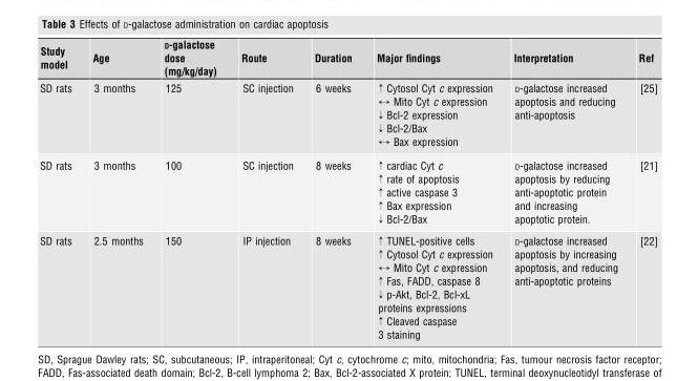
<table><thead><tr><td>Study model</td><td>Age</td><td>D-galactose dose (mg/kg/day)</td><td>Route</td><td>Duration</td><td>Major findings</td><td>Interpretation</td><td>Ref</td></tr></thead><tbody><tr><td>SD rats</td><td>3 months</td><td>125</td><td>SC injection</td><td>6 weeks</td><td>↑ Cytosol Cyt c expression ↔ Mito Cyt c expression ↓ Bcl-2 expression ↓ Bcl-2/Bax ↔ Bax expression</td><td>D-galactose increased apoptosis and reducing anti-apoptosis</td><td>[25]</td></tr><tr><td>SD rats</td><td>3 months</td><td>100</td><td>SC injection</td><td>8 weeks</td><td>↑ cardiac Cyt c ↑ rate of apoptosis ↑ active caspase 3 ↑ Bax expression ↓ Bcl-2/Bax</td><td>D-galactose increased apoptosis by reducing anti-apoptotic protein and increasing apoptotic protein.</td><td>[21]</td></tr><tr><td>SD rats</td><td>2.5 months</td><td>150</td><td>IP injection</td><td>8 weeks</td><td>↑ TUNEL-positive cells ↑ Cytosol Cyt c expression ↔ Mito Cyt c expression ↑ Fas, FADD, caspase 8 ↓ p-Akt, Bcl-2, Bcl-xL proteins expressions ↑ Cleaved caspase 3 staining</td><td>D-galactose increased apoptosis by increasing apoptosis, and reducing anti-apoptotic proteins</td><td>[22]</td></tr></tbody></table>